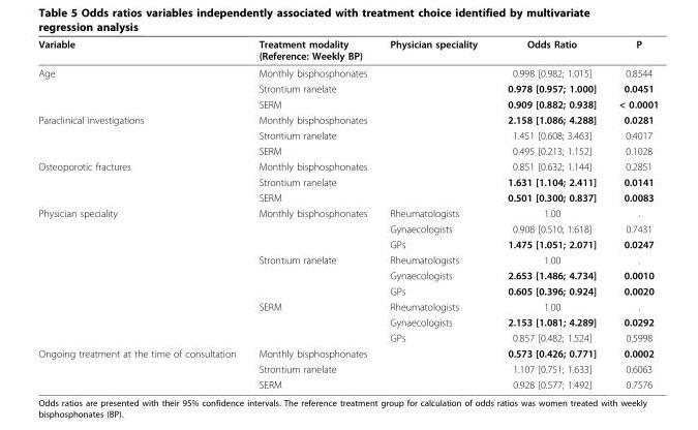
<table><thead><tr><td>Variable</td><td>Treatment modality (Reference: Weekly BP)</td><td>Physician speciality</td><td>Odds Ratio</td><td>P</td></tr></thead><tbody><tr><td rowspan="3">Age</td><td>Monthly bisphosphonates</td><td></td><td>0.998 [0.982; 1.015]</td><td>0.8544</td></tr><tr><td>Strontium ranelate</td><td></td><td>0.978 [0.957; 1.000]</td><td>0.0451</td></tr><tr><td>SERM</td><td></td><td>0.909 [0.882; 0.938]</td><td>&lt; 0.0001</td></tr><tr><td rowspan="3">Paraclinical investigations</td><td>Monthly bisphosphonates</td><td></td><td>2.158 [1.086; 4.288]</td><td>0.0281</td></tr><tr><td>Strontium ranelate</td><td></td><td>1.451 [0.608; 3.463]</td><td>0.4017</td></tr><tr><td>SERM</td><td></td><td>0.495 [0.213; 1.152]</td><td>0.1028</td></tr><tr><td rowspan="3">Osteoporotic fractures</td><td>Monthly bisphosphonates</td><td></td><td>0.851 [0.632; 1.144]</td><td>0.2851</td></tr><tr><td>Strontium ranelate</td><td></td><td>1.631 [1.104; 2.411]</td><td>0.0141</td></tr><tr><td>SERM</td><td></td><td>0.501 [0.300; 0.837]</td><td>0.0083</td></tr><tr><td rowspan="9">Physician speciality</td><td>Monthly bisphosphonates</td><td>Rheumatologists</td><td>1.00</td><td>.</td></tr><tr><td></td><td>Gynaecologists</td><td>0.908 [0.510; 1.618]</td><td>0.7431</td></tr><tr><td></td><td>GPs</td><td>1.475 [1.051; 2.071]</td><td>0.0247</td></tr><tr><td>Strontium ranelate</td><td>Rheumatologists</td><td>1.00</td><td>.</td></tr><tr><td></td><td>Gynaecologists</td><td>2.653 [1.486; 4.734]</td><td>0.0010</td></tr><tr><td></td><td>GPs</td><td>0.605 [0.396; 0.924]</td><td>0.0020</td></tr><tr><td>SERM</td><td>Rheumatologists</td><td>1.00</td><td>.</td></tr><tr><td></td><td>Gynaecologists</td><td>2.153 [1.081; 4.289]</td><td>0.0292</td></tr><tr><td></td><td>GPs</td><td>0.857 [0.482; 1.524]</td><td>0.5998</td></tr><tr><td rowspan="3">Ongoing treatment at the time of consultation</td><td>Monthly bisphosphonates</td><td></td><td>0.573 [0.426; 0.771]</td><td>0.0002</td></tr><tr><td>Strontium ranelate</td><td></td><td>1.107 [0.751; 1.633]</td><td>0.6063</td></tr><tr><td>SERM</td><td></td><td>0.928 [0.577; 1.492]</td><td>0.7576</td></tr></tbody></table>